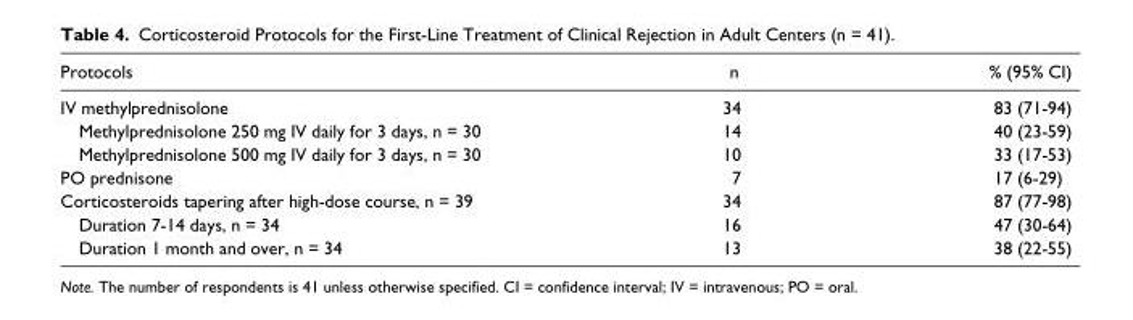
<table><thead><tr><td>Protocols</td><td>n</td><td>% (95% CI)</td></tr></thead><tbody><tr><td>IV methylprednisolone</td><td>34</td><td>83 (71-94)</td></tr><tr><td>Methylprednisolone 250 mg IV daily for 3 days, n = 30</td><td>14</td><td>40 (23-59)</td></tr><tr><td>Methylprednisolone 500 mg IV daily for 3 days, n = 30</td><td>10</td><td>33 (17-53)</td></tr><tr><td>PO prednisone</td><td>7</td><td>17 (6-29)</td></tr><tr><td>Corticosteroids tapering after high-dose course, n = 39</td><td>34</td><td>87 (77-98)</td></tr><tr><td>Duration 7-14 days, n = 34</td><td>16</td><td>47 (30-64)</td></tr><tr><td>Duration 1 month and over, n = 34</td><td>13</td><td>38 (22-55)</td></tr></tbody></table>